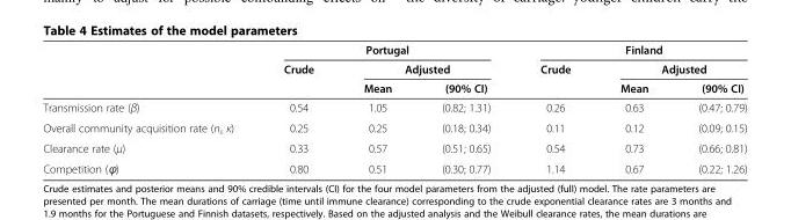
<table><thead><tr><td rowspan="3"></td><td colspan="3">Portugal</td><td colspan="3">Finland</td></tr><tr><td rowspan="2">Crude</td><td colspan="2">Adjusted</td><td rowspan="2">Crude</td><td colspan="2">Adjusted</td></tr><tr><td>Mean</td><td>(90% CI)</td><td>Mean</td><td>(90% CI)</td></tr></thead><tbody><tr><td>Transmission rate (β)</td><td>0.54</td><td>1.05</td><td>(0.82; 1.31)</td><td>0.26</td><td>0.63</td><td>(0.47; 0.79)</td></tr><tr><td>Overall community acquisition rate (n<sub>s</sub> к)</td><td>0.25</td><td>0.25</td><td>(0.18; 0.34)</td><td>0.11</td><td>0.12</td><td>(0.09; 0.15)</td></tr><tr><td>Clearance rate (μ)</td><td>0.33</td><td>0.57</td><td>(0.51; 0.65)</td><td>0.54</td><td>0.73</td><td>(0.66; 0.81)</td></tr><tr><td>Competition (ϕ)</td><td>0.80</td><td>0.51</td><td>(0.30; 0.77)</td><td>1.14</td><td>0.67</td><td>(0.22; 1.26)</td></tr></tbody></table>